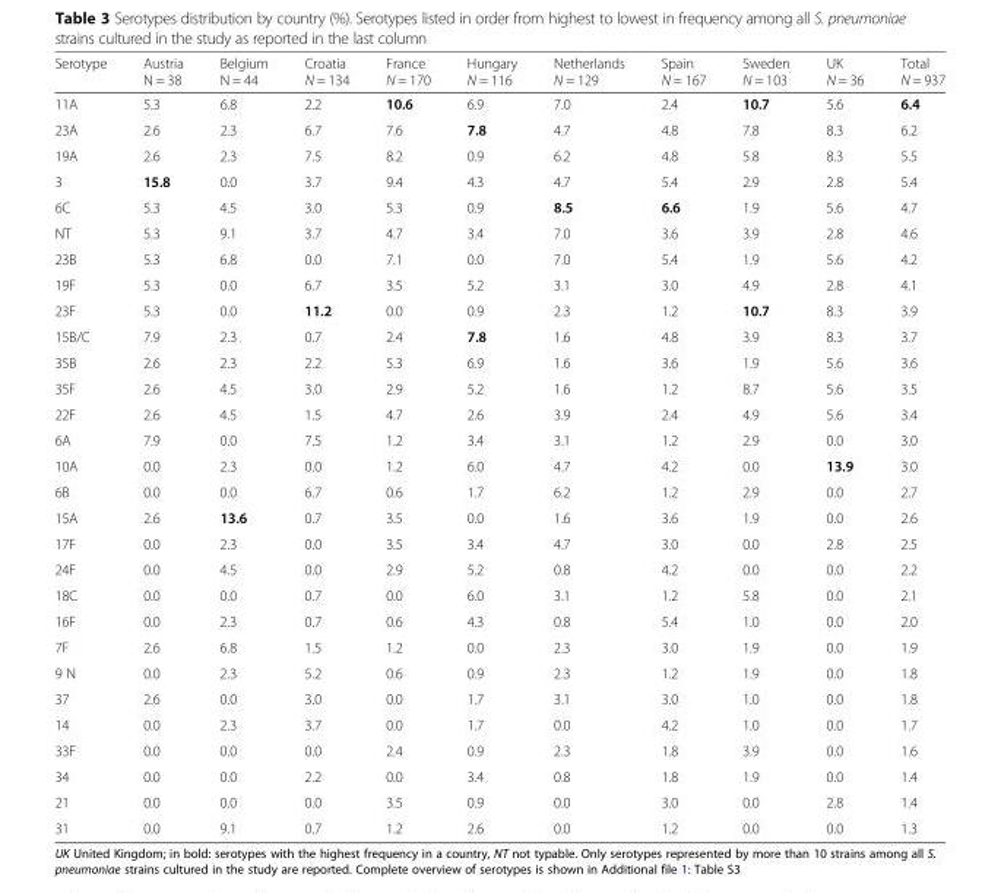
<table><thead><tr><td>Serotype</td><td>Austria N = 38</td><td>Belgium N = 44</td><td>Croatia N = 134</td><td>France N = 170</td><td>Hungary N = 116</td><td>Netherlands N = 129</td><td>Spain N = 167</td><td>Sweden N = 103</td><td>UK N = 36</td><td>Total N = 937</td></tr></thead><tbody><tr><td>11A</td><td>5.3</td><td>6.8</td><td>2.2</td><td>10.6</td><td>6.9</td><td>7.0</td><td>2.4</td><td>10.7</td><td>5.6</td><td>6.4</td></tr><tr><td>23A</td><td>2.6</td><td>2.3</td><td>6.7</td><td>7.6</td><td>7.8</td><td>4.7</td><td>4.8</td><td>7.8</td><td>8.3</td><td>6.2</td></tr><tr><td>19A</td><td>2.6</td><td>2.3</td><td>7.5</td><td>8.2</td><td>0.9</td><td>6.2</td><td>4.8</td><td>5.8</td><td>8.3</td><td>5.5</td></tr><tr><td>3</td><td>15.8</td><td>0.0</td><td>3.7</td><td>9.4</td><td>4.3</td><td>4.7</td><td>5.4</td><td>2.9</td><td>2.8</td><td>5.4</td></tr><tr><td>6C</td><td>5.3</td><td>4.5</td><td>3.0</td><td>5.3</td><td>0.9</td><td>8.5</td><td>6.6</td><td>1.9</td><td>5.6</td><td>4.7</td></tr><tr><td>NT</td><td>5.3</td><td>9.1</td><td>3.7</td><td>4.7</td><td>3.4</td><td>7.0</td><td>3.6</td><td>3.9</td><td>2.8</td><td>4.6</td></tr><tr><td>23B</td><td>5.3</td><td>6.8</td><td>0.0</td><td>7.1</td><td>0.0</td><td>7.0</td><td>5.4</td><td>1.9</td><td>5.6</td><td>4.2</td></tr><tr><td>19F</td><td>5.3</td><td>0.0</td><td>6.7</td><td>3.5</td><td>5.2</td><td>3.1</td><td>3.0</td><td>4.9</td><td>2.8</td><td>4.1</td></tr><tr><td>23F</td><td>5.3</td><td>0.0</td><td>11.2</td><td>0.0</td><td>0.9</td><td>2.3</td><td>1.2</td><td>10.7</td><td>8.3</td><td>3.9</td></tr><tr><td>15B/C</td><td>7.9</td><td>2.3</td><td>0.7</td><td>2.4</td><td>7.8</td><td>1.6</td><td>4.8</td><td>3.9</td><td>8.3</td><td>3.7</td></tr><tr><td>35B</td><td>2.6</td><td>2.3</td><td>2.2</td><td>5.3</td><td>6.9</td><td>1.6</td><td>3.6</td><td>1.9</td><td>5.6</td><td>3.6</td></tr><tr><td>35F</td><td>2.6</td><td>4.5</td><td>3.0</td><td>2.9</td><td>5.2</td><td>1.6</td><td>1.2</td><td>8.7</td><td>5.6</td><td>3.5</td></tr><tr><td>22F</td><td>2.6</td><td>4.5</td><td>1.5</td><td>4.7</td><td>2.6</td><td>3.9</td><td>2.4</td><td>4.9</td><td>5.6</td><td>3.4</td></tr><tr><td>6A</td><td>7.9</td><td>0.0</td><td>7.5</td><td>1.2</td><td>3.4</td><td>3.1</td><td>1.2</td><td>2.9</td><td>0.0</td><td>3.0</td></tr><tr><td>10A</td><td>0.0</td><td>2.3</td><td>0.0</td><td>1.2</td><td>6.0</td><td>4.7</td><td>4.2</td><td>0.0</td><td>13.9</td><td>3.0</td></tr><tr><td>6B</td><td>0.0</td><td>0.0</td><td>6.7</td><td>0.6</td><td>1.7</td><td>6.2</td><td>1.2</td><td>2.9</td><td>0.0</td><td>2.7</td></tr><tr><td>15A</td><td>2.6</td><td>13.6</td><td>0.7</td><td>3.5</td><td>0.0</td><td>1.6</td><td>3.6</td><td>1.9</td><td>0.0</td><td>2.6</td></tr><tr><td>17F</td><td>0.0</td><td>2.3</td><td>0.0</td><td>3.5</td><td>3.4</td><td>4.7</td><td>3.0</td><td>0.0</td><td>2.8</td><td>2.5</td></tr><tr><td>24F</td><td>0.0</td><td>4.5</td><td>0.0</td><td>2.9</td><td>5.2</td><td>0.8</td><td>4.2</td><td>0.0</td><td>0.0</td><td>2.2</td></tr><tr><td>18C</td><td>0.0</td><td>0.0</td><td>0.7</td><td>0.0</td><td>6.0</td><td>3.1</td><td>1.2</td><td>5.8</td><td>0.0</td><td>2.1</td></tr><tr><td>16F</td><td>0.0</td><td>2.3</td><td>0.7</td><td>0.6</td><td>4.3</td><td>0.8</td><td>5.4</td><td>1.0</td><td>0.0</td><td>2.0</td></tr><tr><td>7F</td><td>2.6</td><td>6.8</td><td>1.5</td><td>1.2</td><td>0.0</td><td>2.3</td><td>3.0</td><td>1.9</td><td>0.0</td><td>1.9</td></tr><tr><td>9 N</td><td>0.0</td><td>2.3</td><td>5.2</td><td>0.6</td><td>0.9</td><td>2.3</td><td>1.2</td><td>1.9</td><td>0.0</td><td>1.8</td></tr><tr><td>37</td><td>2.6</td><td>0.0</td><td>3.0</td><td>0.0</td><td>1.7</td><td>3.1</td><td>3.0</td><td>1.0</td><td>0.0</td><td>1.8</td></tr><tr><td>14</td><td>0.0</td><td>2.3</td><td>3.7</td><td>0.0</td><td>1.7</td><td>0.0</td><td>4.2</td><td>1.0</td><td>0.0</td><td>1.7</td></tr><tr><td>33F</td><td>0.0</td><td>0.0</td><td>0.0</td><td>2.4</td><td>0.9</td><td>2.3</td><td>1.8</td><td>3.9</td><td>0.0</td><td>1.6</td></tr><tr><td>34</td><td>0.0</td><td>0.0</td><td>2.2</td><td>0.0</td><td>3.4</td><td>0.8</td><td>1.8</td><td>1.9</td><td>0.0</td><td>1.4</td></tr><tr><td>21</td><td>0.0</td><td>0.0</td><td>0.0</td><td>3.5</td><td>0.9</td><td>0.0</td><td>3.0</td><td>0.0</td><td>2.8</td><td>1.4</td></tr><tr><td>31</td><td>0.0</td><td>9.1</td><td>0.7</td><td>1.2</td><td>2.6</td><td>0.0</td><td>1.2</td><td>0.0</td><td>0.0</td><td>1.3</td></tr></tbody></table>